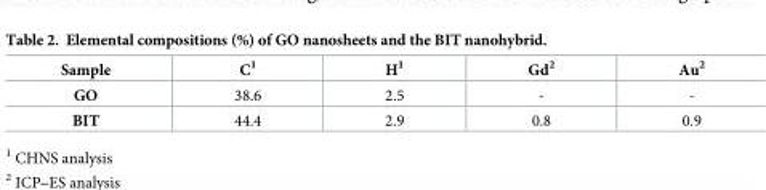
<table><thead><tr><td>Sample</td><td>C<sup>1</sup></td><td>H<sup>1</sup></td><td>Gd<sup>2</sup></td><td>Au<sup>2</sup></td></tr></thead><tbody><tr><td>GO</td><td>38.6</td><td>2.5</td><td>-</td><td>-</td></tr><tr><td>BIT</td><td>44.4</td><td>2.9</td><td>0.8</td><td>0.9</td></tr></tbody></table>